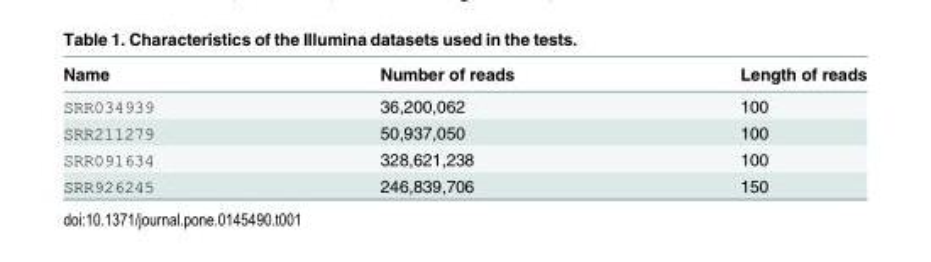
<table><thead><tr><td>Name</td><td>Number of reads</td><td>Length of reads</td></tr></thead><tbody><tr><td>SRR034939</td><td>36,200,062</td><td>100</td></tr><tr><td>SRR211279</td><td>50,937,050</td><td>100</td></tr><tr><td>SRR091634</td><td>328,621,238</td><td>100</td></tr><tr><td>SRR926245</td><td>246,839,706</td><td>150</td></tr></tbody></table>